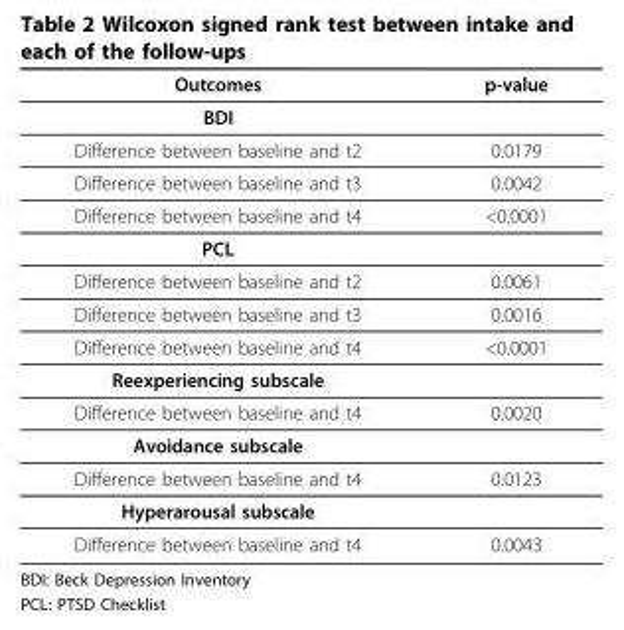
<table><thead><tr><td>Outcomes</td><td>p-value</td></tr></thead><tbody><tr><td colspan="2">BDI</td></tr><tr><td>Difference between baseline and t2</td><td>0.0179</td></tr><tr><td>Difference between baseline and t3</td><td>0.0042</td></tr><tr><td>Difference between baseline and t4</td><td>&lt;0.0001</td></tr><tr><td colspan="2">PCL</td></tr><tr><td>Difference between baseline and t2</td><td>0.0061</td></tr><tr><td>Difference between baseline and t3</td><td>0.0016</td></tr><tr><td>Difference between baseline and t4</td><td>&lt;0.0001</td></tr><tr><td colspan="2">Reexperiencing subscale</td></tr><tr><td>Difference between baseline and t4</td><td>0.0020</td></tr><tr><td colspan="2">Avoidance subscale</td></tr><tr><td>Difference between baseline and t4</td><td>0.0123</td></tr><tr><td colspan="2">Hyperarousal subscale</td></tr><tr><td>Difference between baseline and t4</td><td>0.0043</td></tr></tbody></table>